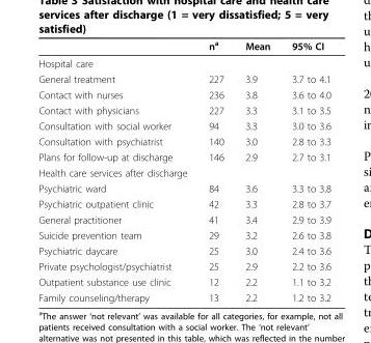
<table><thead><tr><td></td><td>n<sup>a</sup></td><td>Mean</td><td>95% CI</td></tr></thead><tbody><tr><td colspan="4">Hospital care</td></tr><tr><td>General treatment</td><td>227</td><td>3.9</td><td>3.7 to 4.1</td></tr><tr><td>Contact with nurses</td><td>236</td><td>3.8</td><td>3.6 to 4.0</td></tr><tr><td>Contact with physicians</td><td>227</td><td>3.3</td><td>3.1 to 3.5</td></tr><tr><td>Consultation with social worker</td><td>94</td><td>3.3</td><td>3.0 to 3.6</td></tr><tr><td>Consultation with psychiatrist</td><td>140</td><td>3.0</td><td>2.8 to 3.3</td></tr><tr><td>Plans for follow-up at discharge</td><td>146</td><td>2.9</td><td>2.7 to 3.1</td></tr><tr><td colspan="4">Health care services after discharge</td></tr><tr><td>Psychiatric ward</td><td>84</td><td>3.6</td><td>3.3 to 3.8</td></tr><tr><td>Psychiatric outpatient clinic</td><td>42</td><td>3.3</td><td>2.8 to 3.7</td></tr><tr><td>General practitioner</td><td>41</td><td>3.4</td><td>2.9 to 3.9</td></tr><tr><td>Suicide prevention team</td><td>29</td><td>3.2</td><td>2.6 to 3.8</td></tr><tr><td>Psychiatric daycare</td><td>25</td><td>3.0</td><td>2.4 to 3.6</td></tr><tr><td>Private psychologist/psychiatrist</td><td>25</td><td>2.9</td><td>2.2 to 3.6</td></tr><tr><td>Outpatient substance use clinic</td><td>12</td><td>2.2</td><td>1.1 to 3.2</td></tr><tr><td>Family counseling/therapy</td><td>13</td><td>2.2</td><td>1.2 to 3.2</td></tr></tbody></table>